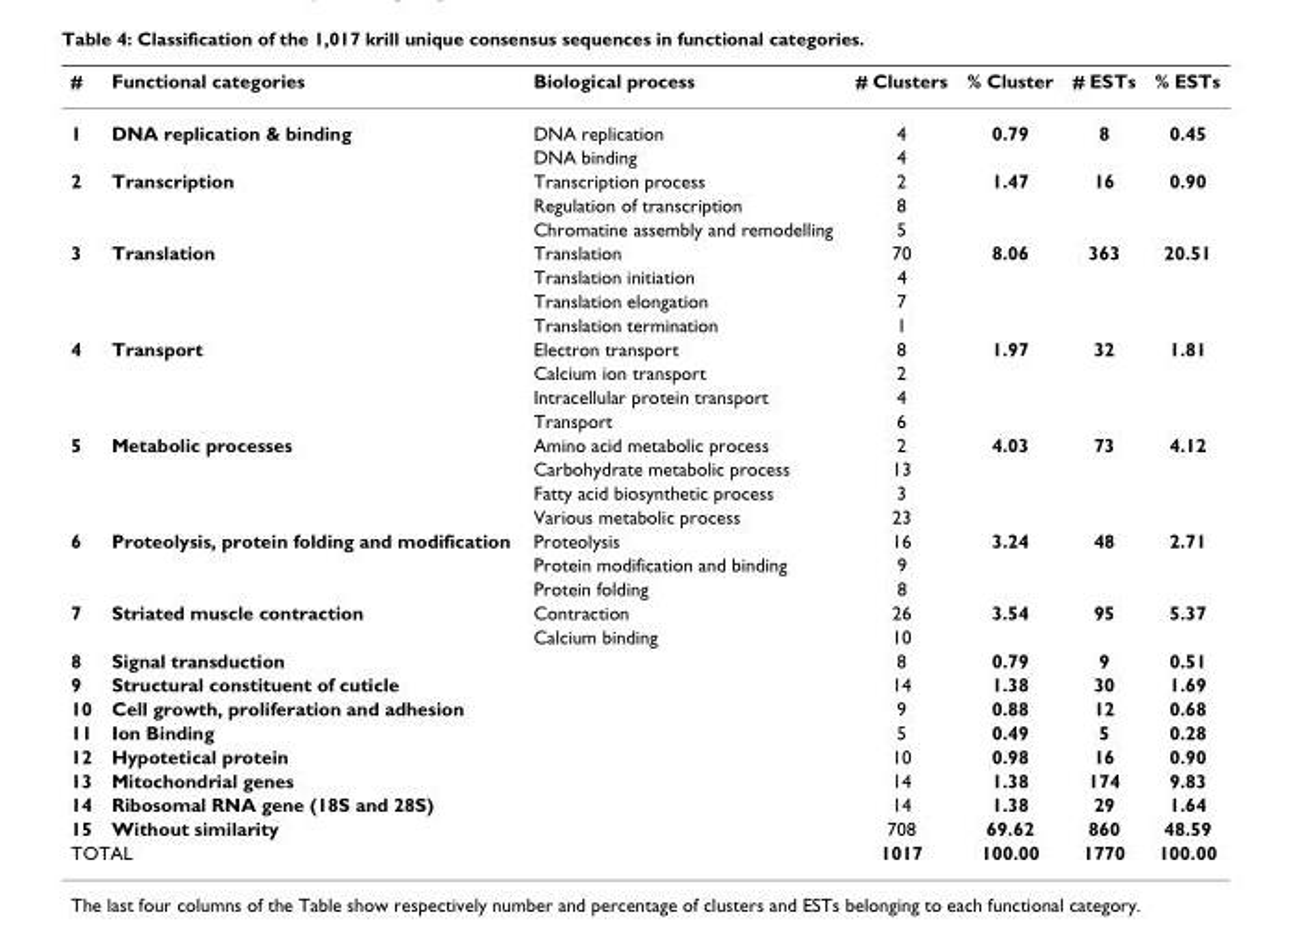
<table><thead><tr><td>#</td><td>Functional categories</td><td>Biological process</td><td># Clusters</td><td>% Cluster</td><td># ESTs</td><td>% ESTs</td></tr></thead><tbody><tr><td rowspan="2">1</td><td>DNA replication &amp; binding</td><td>DNA replication</td><td>4</td><td>0.79</td><td>8</td><td>0.45</td></tr><tr><td></td><td>DNA binding</td><td>4</td><td></td><td></td><td></td></tr><tr><td rowspan="3">2</td><td>Transcription</td><td>Transcription process</td><td>2</td><td>1.47</td><td>16</td><td>0.90</td></tr><tr><td></td><td>Regulation of transcription</td><td>8</td><td></td><td></td><td></td></tr><tr><td></td><td>Chromatine assembly and remodelling</td><td>5</td><td></td><td></td><td></td></tr><tr><td rowspan="4">3</td><td>Translation</td><td>Translation</td><td>70</td><td>8.06</td><td>363</td><td>20.51</td></tr><tr><td></td><td>Translation initiation</td><td>4</td><td></td><td></td><td></td></tr><tr><td></td><td>Translation elongation</td><td>7</td><td></td><td></td><td></td></tr><tr><td></td><td>Translation termination</td><td>1</td><td></td><td></td><td></td></tr><tr><td rowspan="4">4</td><td>Transport</td><td>Electron transport</td><td>8</td><td>1.97</td><td>32</td><td>1.81</td></tr><tr><td></td><td>Calcium ion transport</td><td>2</td><td></td><td></td><td></td></tr><tr><td></td><td>Intracellular protein transport</td><td>4</td><td></td><td></td><td></td></tr><tr><td></td><td>Transport</td><td>6</td><td></td><td></td><td></td></tr><tr><td rowspan="4">5</td><td>Metabolic processes</td><td>Amino acid metabolic process</td><td>2</td><td>4.03</td><td>73</td><td>4.12</td></tr><tr><td></td><td>Carbohydrate metabolic process</td><td>13</td><td></td><td></td><td></td></tr><tr><td></td><td>Fatty acid biosynthetic process</td><td>3</td><td></td><td></td><td></td></tr><tr><td></td><td>Various metabolic process</td><td>23</td><td></td><td></td><td></td></tr><tr><td rowspan="3">6</td><td>Proteolysis, protein folding and modification</td><td>Proteolysis</td><td>16</td><td>3.24</td><td>48</td><td>2.71</td></tr><tr><td></td><td>Protein modification and binding</td><td>9</td><td></td><td></td><td></td></tr><tr><td></td><td>Protein folding</td><td>8</td><td></td><td></td><td></td></tr><tr><td rowspan="2">7</td><td>Striated muscle contraction</td><td>Contraction</td><td>26</td><td>3.54</td><td>95</td><td>5.37</td></tr><tr><td></td><td>Calcium binding</td><td>10</td><td></td><td></td><td></td></tr><tr><td>8</td><td>Signal transduction</td><td></td><td>8</td><td>0.79</td><td>9</td><td>0.51</td></tr><tr><td>9</td><td>Structural constituent of cuticle</td><td></td><td>14</td><td>1.38</td><td>30</td><td>1.69</td></tr><tr><td>10</td><td>Cell growth, proliferation and adhesion</td><td></td><td>9</td><td>0.88</td><td>12</td><td>0.68</td></tr><tr><td>11</td><td>Ion Binding</td><td></td><td>5</td><td>0.49</td><td>5</td><td>0.28</td></tr><tr><td>12</td><td>Hypotetical protein</td><td></td><td>10</td><td>0.98</td><td>16</td><td>0.90</td></tr><tr><td>13</td><td>Mitochondrial genes</td><td></td><td>14</td><td>1.38</td><td>174</td><td>9.83</td></tr><tr><td>14</td><td>Ribosomal RNA gene (18S and 28S)</td><td></td><td>14</td><td>1.38</td><td>29</td><td>1.64</td></tr><tr><td>15</td><td>Without similarity</td><td></td><td>708</td><td>69.62</td><td>860</td><td>48.59</td></tr><tr><td colspan="2">TOTAL</td><td></td><td>1017</td><td>100.00</td><td>1770</td><td>100.00</td></tr></tbody></table>